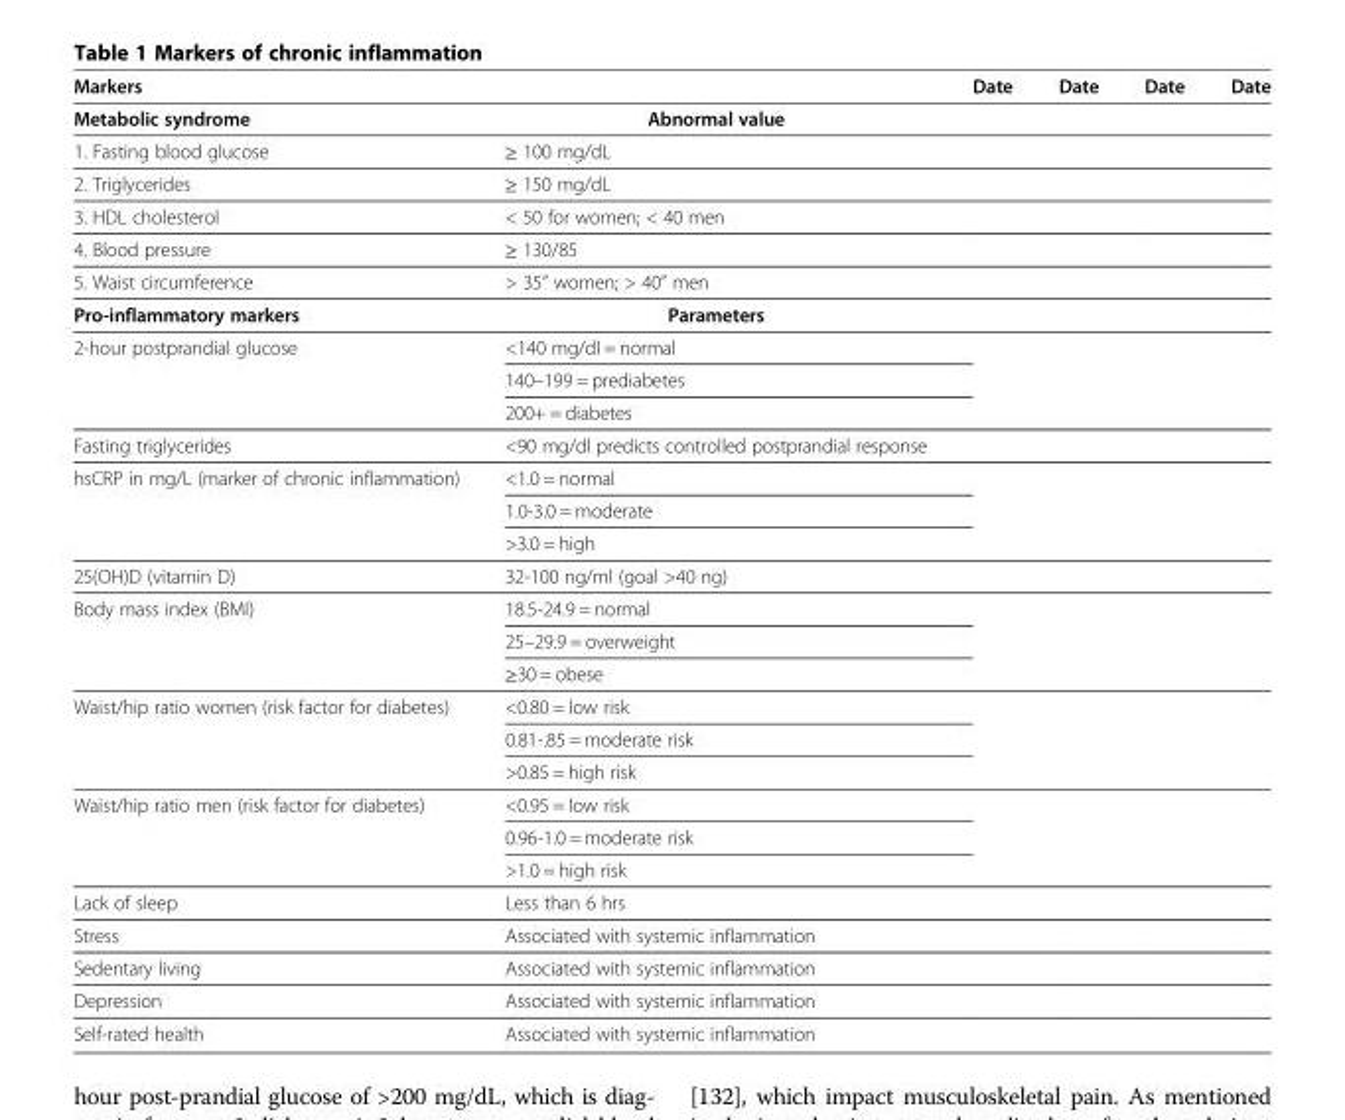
<table><thead><tr><td>Markers</td><td></td><td>Date</td><td>Date</td><td>Date</td><td>Date</td></tr></thead><tbody><tr><td>Metabolic syndrome</td><td>Abnormal value</td><td></td><td></td><td></td><td></td></tr><tr><td>1. Fasting blood glucose</td><td>≥ 100 mg/dL</td><td></td><td></td><td></td><td></td></tr><tr><td>2. Triglycerides</td><td>≥ 150 mg/dL</td><td></td><td></td><td></td><td></td></tr><tr><td>3. HDL cholesterol</td><td>&lt; 50 for women; &lt; 40 men</td><td></td><td></td><td></td><td></td></tr><tr><td>4. Blood pressure</td><td>≥ 130/85</td><td></td><td></td><td></td><td></td></tr><tr><td>5. Waist circumference</td><td>&gt; 35” women; &gt; 40” men</td><td></td><td></td><td></td><td></td></tr><tr><td>Pro-inflammatory markers</td><td>Parameters</td><td></td><td></td><td></td><td></td></tr><tr><td rowspan="3">2-hour postprandial glucose</td><td>&lt;140 mg/dl = normal</td><td rowspan="3"></td><td rowspan="3"></td><td rowspan="3"></td><td rowspan="3"></td></tr><tr><td>140–199 = prediabetes</td></tr><tr><td>200+ = diabetes</td></tr><tr><td>Fasting triglycerides</td><td>&lt;90 mg/dl predicts controlled postprandial response</td><td></td><td></td><td></td><td></td></tr><tr><td rowspan="3">hsCRP in mg/L (marker of chronic inflammation)</td><td>&lt;1.0 = normal</td><td></td><td></td><td></td><td></td></tr><tr><td>1.0-3.0 = moderate</td><td></td><td></td><td></td><td></td></tr><tr><td>&gt;3.0 = high</td><td></td><td></td><td></td><td></td></tr><tr><td>25(OH)D (vitamin D)</td><td>32-100 ng/ml (goal &gt;40 ng)</td><td></td><td></td><td></td><td></td></tr><tr><td rowspan="3">Body mass index (BMI)</td><td>18.5-24.9 = normal</td><td rowspan="3"></td><td rowspan="3"></td><td rowspan="3"></td><td rowspan="3"></td></tr><tr><td>25–29.9 = overweight</td></tr><tr><td>≥30 = obese</td></tr><tr><td rowspan="3">Waist/hip ratio women (risk factor for diabetes)</td><td>&lt;0.80 = low risk</td><td rowspan="3"></td><td rowspan="3"></td><td rowspan="3"></td><td rowspan="3"></td></tr><tr><td>0.81-.85 = moderate risk</td></tr><tr><td>&gt;0.85 = high risk</td></tr><tr><td rowspan="3">Waist/hip ratio men (risk factor for diabetes)</td><td>&lt;0.95 = low risk</td><td></td><td></td><td></td><td></td></tr><tr><td>0.96-1.0 = moderate risk</td><td></td><td></td><td></td><td></td></tr><tr><td>&gt;1.0 = high risk</td><td></td><td></td><td></td><td></td></tr><tr><td>Lack of sleep</td><td>Less than 6 hrs</td><td></td><td></td><td></td><td></td></tr><tr><td>Stress</td><td>Associated with systemic inflammation</td><td></td><td></td><td></td><td></td></tr><tr><td>Sedentary living</td><td>Associated with systemic inflammation</td><td></td><td></td><td></td><td></td></tr><tr><td>Depression</td><td>Associated with systemic inflammation</td><td></td><td></td><td></td><td></td></tr><tr><td>Self-rated health</td><td>Associated with systemic inflammation</td><td></td><td></td><td></td><td></td></tr></tbody></table>